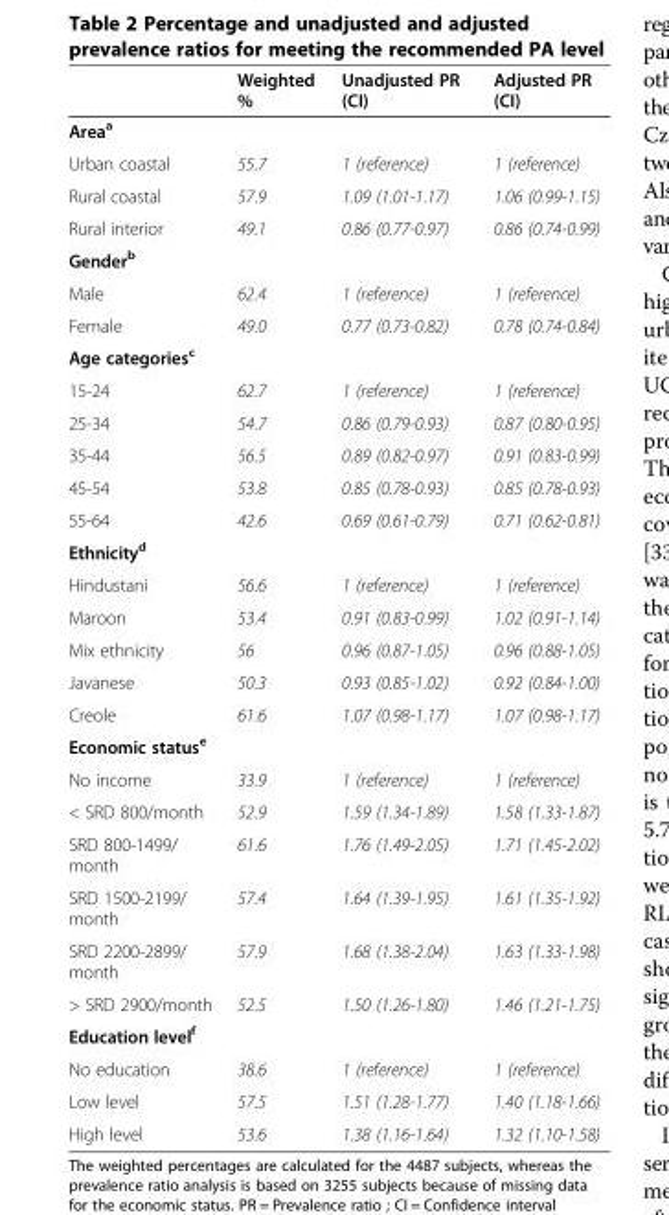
<table><thead><tr><td></td><td>Weighted %</td><td>Unadjusted PR (CI)</td><td>Adjusted PR (CI)</td></tr></thead><tbody><tr><td colspan="4">Area<sup>a</sup></td></tr><tr><td>Urban coastal</td><td>55.7</td><td>1 (reference)</td><td>1 (reference)</td></tr><tr><td>Rural coastal</td><td>57.9</td><td>1.09 (1.01-1.17)</td><td>1.06 (0.99-1.15)</td></tr><tr><td>Rural interior</td><td>49.1</td><td>0.86 (0.77-0.97)</td><td>0.86 (0.74-0.99)</td></tr><tr><td colspan="4">Gender<sup>b</sup></td></tr><tr><td>Male</td><td>62.4</td><td>1 (reference)</td><td>1 (reference)</td></tr><tr><td>Female</td><td>49.0</td><td>0.77 (0.73-0.82)</td><td>0.78 (0.74-0.84)</td></tr><tr><td colspan="4">Age categories<sup>c</sup></td></tr><tr><td>15-24</td><td>62.7</td><td>1 (reference)</td><td>1 (reference)</td></tr><tr><td>25-34</td><td>54.7</td><td>0.86 (0.79-0.93)</td><td>0.87 (0.80-0.95)</td></tr><tr><td>35-44</td><td>56.5</td><td>0.89 (0.82-0.97)</td><td>0.91 (0.83-0.99)</td></tr><tr><td>45-54</td><td>53.8</td><td>0.85 (0.78-0.93)</td><td>0.85 (0.78-0.93)</td></tr><tr><td>55-64</td><td>42.6</td><td>0.69 (0.61-0.79)</td><td>0.71 (0.62-0.81)</td></tr><tr><td colspan="4">Ethnicity<sup>d</sup></td></tr><tr><td>Hindustani</td><td>56.6</td><td>1 (reference)</td><td>1 (reference)</td></tr><tr><td>Maroon</td><td>53.4</td><td>0.91 (0.83-0.99)</td><td>1.02 (0.91-1.14)</td></tr><tr><td>Mix ethnicity</td><td>56</td><td>0.96 (0.87-1.05)</td><td>0.96 (0.88-1.05)</td></tr><tr><td>Javanese</td><td>50.3</td><td>0.93 (0.85-1.02)</td><td>0.92 (0.84-1.00)</td></tr><tr><td>Creole</td><td>61.6</td><td>1.07 (0.98-1.17)</td><td>1.07 (0.98-1.17)</td></tr><tr><td colspan="4">Economic status<sup>e</sup></td></tr><tr><td>No income</td><td>33.9</td><td>1 (reference)</td><td>1 (reference)</td></tr><tr><td>&lt; SRD 800/month</td><td>52.9</td><td>1.59 (1.34-1.89)</td><td>1.58 (1.33-1.87)</td></tr><tr><td>SRD 800-1499/ month</td><td>61.6</td><td>1.76 (1.49-2.05)</td><td>1.71 (1.45-2.02)</td></tr><tr><td>SRD 1500-2199/ month</td><td>57.4</td><td>1.64 (1.39-1.95)</td><td>1.61 (1.35-1.92)</td></tr><tr><td>SRD 2200-2899/ month</td><td>57.9</td><td>1.68 (1.38-2.04)</td><td>1.63 (1.33-1.98)</td></tr><tr><td>&gt; SRD 2900/month</td><td>52.5</td><td>1.50 (1.26-1.80)</td><td>1.46 (1.21-1.75)</td></tr><tr><td colspan="4">Education level<sup>f</sup></td></tr><tr><td>No education</td><td>38.6</td><td>1 (reference)</td><td>1 (reference)</td></tr><tr><td>Low level</td><td>57.5</td><td>1.51 (1.28-1.77)</td><td>1.40 (1.18-1.66)</td></tr><tr><td>High level</td><td>53.6</td><td>1.38 (1.16-1.64)</td><td>1.32 (1.10-1.58)</td></tr></tbody></table>